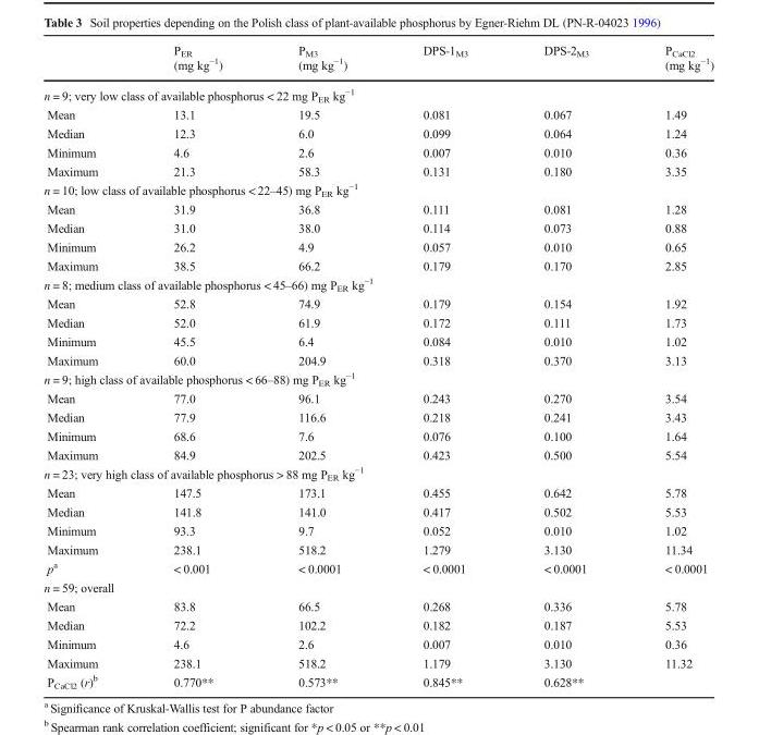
<table><thead><tr><td></td><td>P<sub>ER</sub> (mg kg<sup>−1</sup>)</td><td>P<sub>M3</sub> (mg kg<sup>−1</sup>)</td><td>DPS-1<sub>M3</sub></td><td>DPS-2<sub>M3</sub></td><td>P<sub>CaCl2</sub> (mg kg<sup>−1</sup>)</td></tr></thead><tbody><tr><td colspan="6">n = 9; very low class of available phosphorus &lt; 22 mg P<sub>ER</sub> kg<sup>−1</sup></td></tr><tr><td>Mean</td><td>13.1</td><td>19.5</td><td>0.081</td><td>0.067</td><td>1.49</td></tr><tr><td>Median</td><td>12.3</td><td>6.0</td><td>0.099</td><td>0.064</td><td>1.24</td></tr><tr><td>Minimum</td><td>4.6</td><td>2.6</td><td>0.007</td><td>0.010</td><td>0.36</td></tr><tr><td>Maximum</td><td>21.3</td><td>58.3</td><td>0.131</td><td>0.180</td><td>3.35</td></tr><tr><td colspan="6">n = 10; low class of available phosphorus &lt; 22–45) mg P<sub>ER</sub> kg<sup>−1</sup></td></tr><tr><td>Mean</td><td>31.9</td><td>36.8</td><td>0.111</td><td>0.081</td><td>1.28</td></tr><tr><td>Median</td><td>31.0</td><td>38.0</td><td>0.114</td><td>0.073</td><td>0.88</td></tr><tr><td>Minimum</td><td>26.2</td><td>4.9</td><td>0.057</td><td>0.010</td><td>0.65</td></tr><tr><td>Maximum</td><td>38.5</td><td>66.2</td><td>0.179</td><td>0.170</td><td>2.85</td></tr><tr><td colspan="6">n = 8; medium class of available phosphorus &lt; 45–66) mg P<sub>ER</sub> kg<sup>−1</sup></td></tr><tr><td>Mean</td><td>52.8</td><td>74.9</td><td>0.179</td><td>0.154</td><td>1.92</td></tr><tr><td>Median</td><td>52.0</td><td>61.9</td><td>0.172</td><td>0.111</td><td>1.73</td></tr><tr><td>Minimum</td><td>45.5</td><td>6.4</td><td>0.084</td><td>0.010</td><td>1.02</td></tr><tr><td>Maximum</td><td>60.0</td><td>204.9</td><td>0.318</td><td>0.370</td><td>3.13</td></tr><tr><td colspan="6">n = 9; high class of available phosphorus &lt; 66–88) mg P<sub>ER</sub> kg<sup>−1</sup></td></tr><tr><td>Mean</td><td>77.0</td><td>96.1</td><td>0.243</td><td>0.270</td><td>3.54</td></tr><tr><td>Median</td><td>77.9</td><td>116.6</td><td>0.218</td><td>0.241</td><td>3.43</td></tr><tr><td>Minimum</td><td>68.6</td><td>7.6</td><td>0.076</td><td>0.100</td><td>1.64</td></tr><tr><td>Maximum</td><td>84.9</td><td>202.5</td><td>0.423</td><td>0.500</td><td>5.54</td></tr><tr><td colspan="6">n = 23; very high class of available phosphorus &gt; 88 mg P<sub>ER</sub> kg<sup>−1</sup></td></tr><tr><td>Mean</td><td>147.5</td><td>173.1</td><td>0.455</td><td>0.642</td><td>5.78</td></tr><tr><td>Median</td><td>141.8</td><td>141.0</td><td>0.417</td><td>0.502</td><td>5.53</td></tr><tr><td>Minimum</td><td>93.3</td><td>9.7</td><td>0.052</td><td>0.010</td><td>1.02</td></tr><tr><td>Maximum</td><td>238.1</td><td>518.2</td><td>1.279</td><td>3.130</td><td>11.34</td></tr><tr><td>p<sup>a</sup></td><td>&lt; 0.001</td><td>&lt; 0.0001</td><td>&lt; 0.0001</td><td>&lt; 0.0001</td><td>&lt; 0.0001</td></tr><tr><td colspan="6">n = 59; overall</td></tr><tr><td>Mean</td><td>83.8</td><td>66.5</td><td>0.268</td><td>0.336</td><td>5.78</td></tr><tr><td>Median</td><td>72.2</td><td>102.2</td><td>0.182</td><td>0.187</td><td>5.53</td></tr><tr><td>Minimum</td><td>4.6</td><td>2.6</td><td>0.007</td><td>0.010</td><td>0.36</td></tr><tr><td>Maximum</td><td>238.1</td><td>518.2</td><td>1.179</td><td>3.130</td><td>11.32</td></tr><tr><td>P<sub>CaCl2</sub> (r)<sup>b</sup></td><td>0.770**</td><td>0.573**</td><td>0.845**</td><td>0.628**</td><td></td></tr></tbody></table>